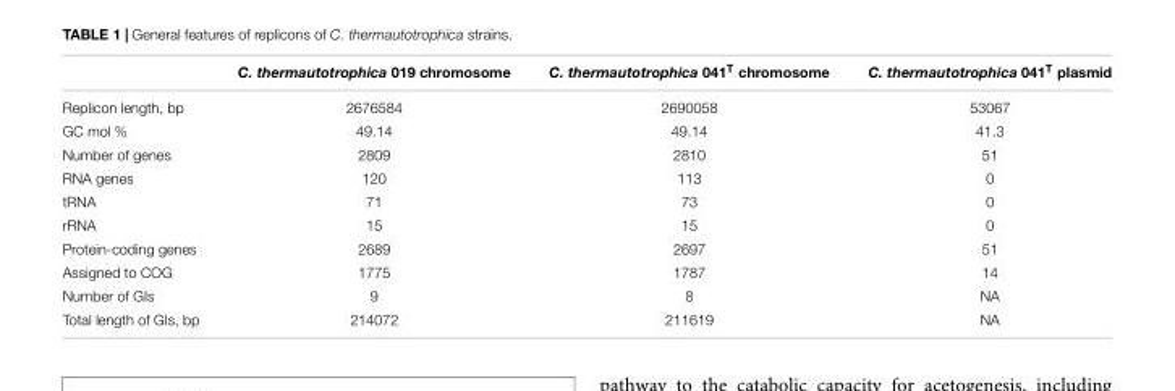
<table><thead><tr><td></td><td>C. thermautotrophica 019 chromosome</td><td>C. thermautotrophica 041<sup>T</sup> chromosome</td><td>C. thermautotrophica 041<sup>T</sup> plasmid</td></tr></thead><tbody><tr><td>Replicon length, bp</td><td>2676584</td><td>2690058</td><td>53067</td></tr><tr><td>GC mol %</td><td>49.14</td><td>49.14</td><td>41.3</td></tr><tr><td>Number of genes</td><td>2809</td><td>2810</td><td>51</td></tr><tr><td>RNA genes</td><td>120</td><td>113</td><td>0</td></tr><tr><td>tRNA</td><td>71</td><td>73</td><td>0</td></tr><tr><td>rRNA</td><td>15</td><td>15</td><td>0</td></tr><tr><td>Protein-coding genes</td><td>2689</td><td>2697</td><td>51</td></tr><tr><td>Assigned to COG</td><td>1775</td><td>1787</td><td>14</td></tr><tr><td>Number of GIs</td><td>9</td><td>8</td><td>NA</td></tr><tr><td>Total length of GIs, bp</td><td>214072</td><td>211619</td><td>NA</td></tr></tbody></table>